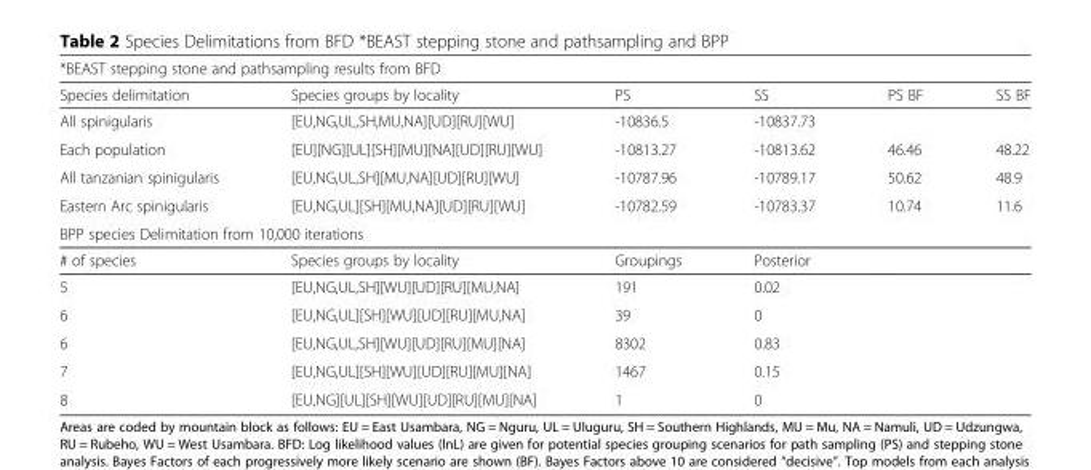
<table><thead><tr><td colspan="6">*BEAST stepping stone and pathsampling results from BFD</td></tr><tr><td>Species delimitation</td><td>Species groups by locality</td><td>PS</td><td>SS</td><td>PS BF</td><td>SS BF</td></tr></thead><tbody><tr><td>All spinigularis</td><td>[EU,NG,UL,SH,MU,NA][UD][RU][WU]</td><td>-10836.5</td><td>-10837.73</td><td></td><td></td></tr><tr><td>Each population</td><td>[EU][NG][UL][SH][MU][NA][UD][RU][WU]</td><td>-10813.27</td><td>-10813.62</td><td>46.46</td><td>48.22</td></tr><tr><td>All tanzanian spinigularis</td><td>[EU,NG,UL,SH][MU,NA][UD][RU][WU]</td><td>-10787.96</td><td>-10789.17</td><td>50.62</td><td>48.9</td></tr><tr><td>Eastern Arc spinigularis</td><td>[EU,NG,UL][SH][MU,NA][UD][RU][WU]</td><td>-10782.59</td><td>-10783.37</td><td>10.74</td><td>11.6</td></tr><tr><td colspan="6">BPP species Delimitation from 10,000 iterations</td></tr><tr><td># of species</td><td>Species groups by locality</td><td>Groupings</td><td>Posterior</td><td></td><td></td></tr><tr><td>5</td><td>[EU,NG,UL,SH][WU][UD][RU][MU,NA]</td><td>191</td><td>0.02</td><td></td><td></td></tr><tr><td>6</td><td>[EU,NG,UL][SH][WU][UD][RU][MU,NA]</td><td>39</td><td>0</td><td></td><td></td></tr><tr><td>6</td><td>[EU,NG,UL,SH][WU][UD][RU][MU][NA]</td><td>8302</td><td>0.83</td><td></td><td></td></tr><tr><td>7</td><td>[EU,NG,UL][SH][WU][UD][RU][MU][NA]</td><td>1467</td><td>0.15</td><td></td><td></td></tr><tr><td>8</td><td>[EU,NG][UL][SH][WU][UD][RU][MU][NA]</td><td>1</td><td>0</td><td></td><td></td></tr></tbody></table>